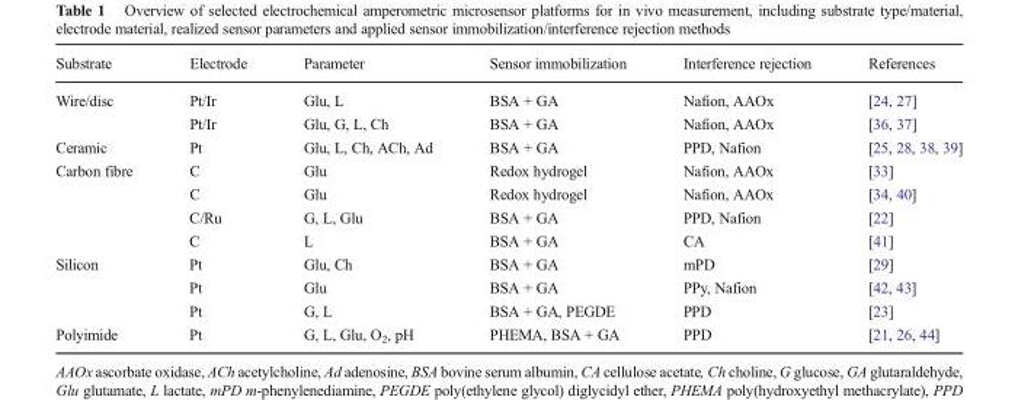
<table><thead><tr><td>Substrate</td><td>Electrode</td><td>Parameter</td><td>Sensor immobilization</td><td>Interference rejection</td><td>References</td></tr></thead><tbody><tr><td rowspan="2">Wire/disc</td><td>Pt/Ir</td><td>Glu, L</td><td>BSA + GA</td><td>Nafion, AAOx</td><td>[24, 27]</td></tr><tr><td>Pt/Ir</td><td>Glu, G, L, Ch</td><td>BSA + GA</td><td>Nafion, AAOx</td><td>[36, 37]</td></tr><tr><td>Ceramic</td><td>Pt</td><td>Glu, L, Ch, ACh, Ad</td><td>BSA + GA</td><td>PPD, Nafion</td><td>[25, 28, 38, 39]</td></tr><tr><td rowspan="4">Carbon fibre</td><td>C</td><td>Glu</td><td>Redox hydrogel</td><td>Nafion, AAOx</td><td>[33]</td></tr><tr><td>C</td><td>Glu</td><td>Redox hydrogel</td><td>Nafion, AAOx</td><td>[34, 40]</td></tr><tr><td>C/Ru</td><td>G, L, Glu</td><td>BSA + GA</td><td>PPD, Nafion</td><td>[22]</td></tr><tr><td>C</td><td>L</td><td>BSA + GA</td><td>CA</td><td>[41]</td></tr><tr><td rowspan="3">Silicon</td><td>Pt</td><td>Glu, Ch</td><td>BSA + GA</td><td>mPD</td><td>[29]</td></tr><tr><td>Pt</td><td>Glu</td><td>BSA + GA</td><td>PPy, Nafion</td><td>[42, 43]</td></tr><tr><td>Pt</td><td>G, L</td><td>BSA + GA, PEGDE</td><td>PPD</td><td>[23]</td></tr><tr><td>Polyimide</td><td>Pt</td><td>G, L, Glu, O<sub>2</sub>, pH</td><td>PHEMA, BSA + GA</td><td>PPD</td><td>[21, 26, 44]</td></tr></tbody></table>